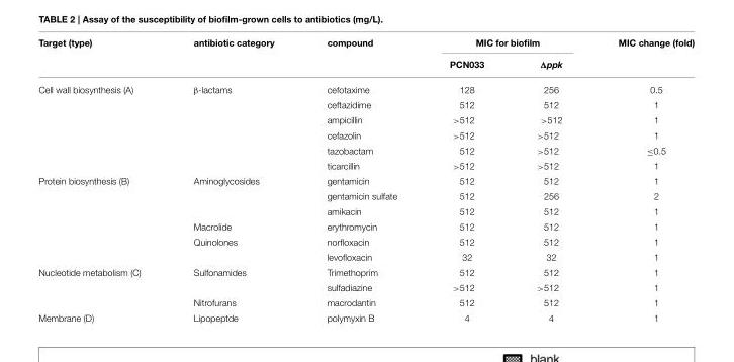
<table><thead><tr><td rowspan="2">Target (type)</td><td rowspan="2">antibiotic category</td><td rowspan="2">compound</td><td colspan="2">MIC for biofilm</td><td rowspan="2">MIC change (fold)</td></tr><tr><td>PCN033</td><td>Δppk</td></tr></thead><tbody><tr><td rowspan="6">Cell wall biosynthesis (A)</td><td>β-lactams</td><td>cefotaxime</td><td>128</td><td>256</td><td>0.5</td></tr><tr><td></td><td>ceftazidime</td><td>512</td><td>512</td><td>1</td></tr><tr><td></td><td>ampicillin</td><td>&gt;512</td><td>&gt;512</td><td>1</td></tr><tr><td></td><td>cefazolin</td><td>&gt;512</td><td>&gt;512</td><td>1</td></tr><tr><td></td><td>tazobactam</td><td>512</td><td>&gt;512</td><td>≤0.5</td></tr><tr><td></td><td>ticarcillin</td><td>&gt;512</td><td>&gt;512</td><td>1</td></tr><tr><td rowspan="6">Protein biosynthesis (B)</td><td>Aminoglycosides</td><td>gentamicin</td><td>512</td><td>512</td><td>1</td></tr><tr><td></td><td>gentamicin sulfate</td><td>512</td><td>256</td><td>2</td></tr><tr><td></td><td>amikacin</td><td>512</td><td>512</td><td>1</td></tr><tr><td>Macrolide</td><td>erythromycin</td><td>512</td><td>512</td><td>1</td></tr><tr><td>Quinolones</td><td>norfloxacin</td><td>512</td><td>512</td><td>1</td></tr><tr><td></td><td>levofloxacin</td><td>32</td><td>32</td><td>1</td></tr><tr><td rowspan="3">Nucleotide metabolism (C)</td><td>Sulfonamides</td><td>Trimethoprim</td><td>512</td><td>512</td><td>1</td></tr><tr><td></td><td>sulfadiazine</td><td>&gt;512</td><td>&gt;512</td><td>1</td></tr><tr><td>Nitrofurans</td><td>macrodantin</td><td>512</td><td>512</td><td>1</td></tr><tr><td>Membrane (D)</td><td>Lipopeptde</td><td>polymyxin B</td><td>4</td><td>4</td><td>1</td></tr></tbody></table>